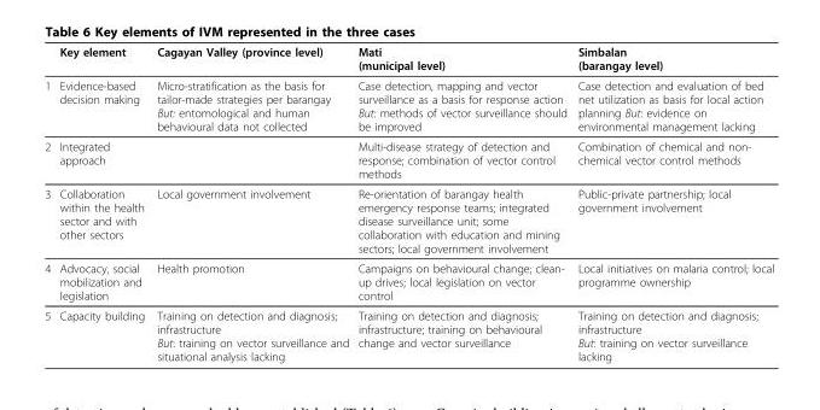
<table><thead><tr><td></td><td>Key element</td><td>Cagayan Valley (province level)</td><td>Mati (municipal level)</td><td>Simbalan (barangay level)</td></tr></thead><tbody><tr><td>1</td><td>Evidence-based decision making</td><td>Micro-stratification as the basis for tailor-made strategies per barangay But: entomological and human behavioural data not collected</td><td>Case detection, mapping and vector surveillance as a basis for response action But: methods of vector surveillance should be improved</td><td>Case detection and evaluation of bed net utilization as basis for local action planning But: evidence on environmental management lacking</td></tr><tr><td>2</td><td>Integrated approach</td><td></td><td>Multi-disease strategy of detection and response; combination of vector control methods</td><td>Combination of chemical and non- chemical vector control methods</td></tr><tr><td>3</td><td>Collaboration within the health sector and with other sectors</td><td>Local government involvement</td><td>Re-orientation of barangay health emergency response teams; integrated disease surveillance unit; some collaboration with education and mining sectors; local government involvement</td><td>Public-private partnership; local government involvement</td></tr><tr><td>4</td><td>Advocacy, social mobilization and legislation</td><td>Health promotion</td><td>Campaigns on behavioural change; clean- up drives; local legislation on vector control</td><td>Local initiatives on malaria control; local programme ownership</td></tr><tr><td>5</td><td>Capacity building</td><td>Training on detection and diagnosis; infrastructure But: training on vector surveillance and situational analysis lacking</td><td>Training on detection and diagnosis; infrastructure; training on behavioural change and vector surveillance</td><td>Training on detection and diagnosis; infrastructure But: training on vector surveillance lacking</td></tr></tbody></table>